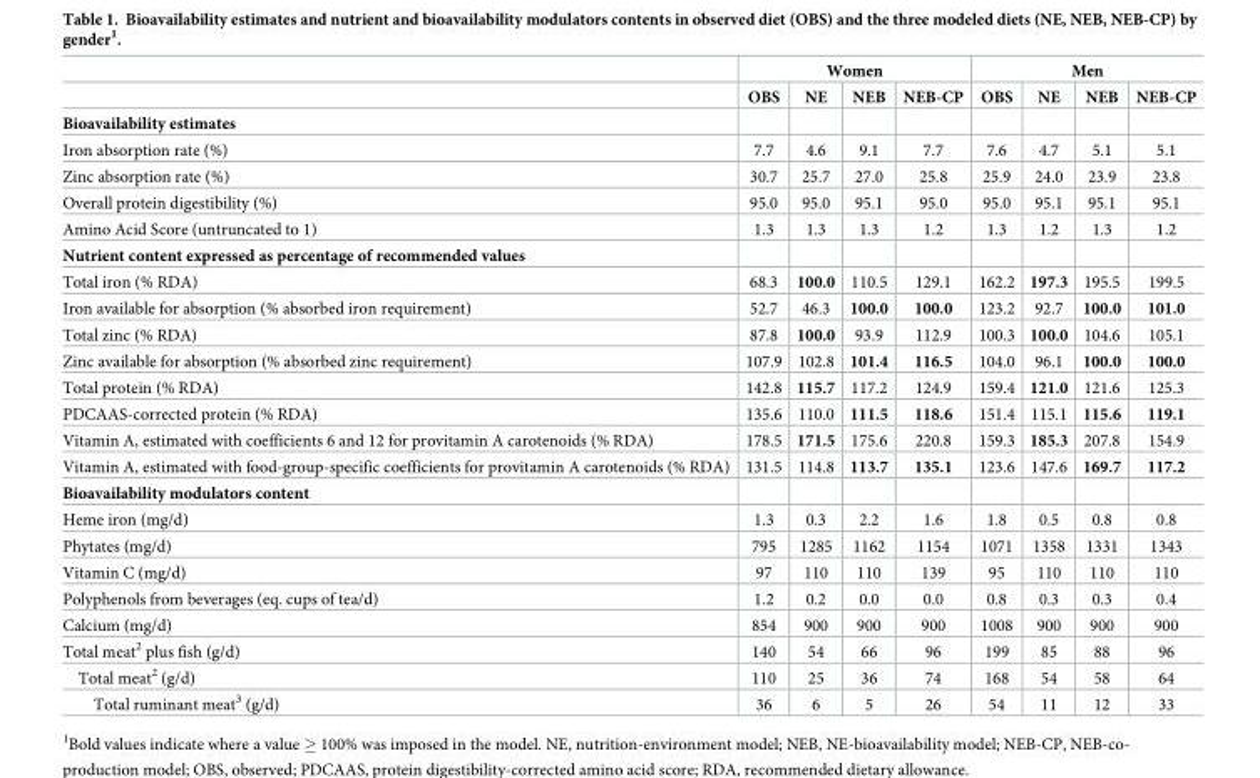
<table><thead><tr><td rowspan="2"></td><td colspan="4">Women</td><td colspan="4">Men</td></tr><tr><td>OBS</td><td>NE</td><td>NEB</td><td>NEB-CP</td><td>OBS</td><td>NE</td><td>NEB</td><td>NEB-CP</td></tr></thead><tbody><tr><td colspan="9">Bioavailability estimates</td></tr><tr><td>Iron absorption rate (%)</td><td>7.7</td><td>4.6</td><td>9.1</td><td>7.7</td><td>7.6</td><td>4.7</td><td>5.1</td><td>5.1</td></tr><tr><td>Zinc absorption rate (%)</td><td>30.7</td><td>25.7</td><td>27.0</td><td>25.8</td><td>25.9</td><td>24.0</td><td>23.9</td><td>23.8</td></tr><tr><td>Overall protein digestibility (%)</td><td>95.0</td><td>95.0</td><td>95.1</td><td>95.0</td><td>95.0</td><td>95.1</td><td>95.1</td><td>95.1</td></tr><tr><td>Amino Acid Score (untruncated to 1)</td><td>1.3</td><td>1.3</td><td>1.3</td><td>1.2</td><td>1.3</td><td>1.2</td><td>1.3</td><td>1.2</td></tr><tr><td colspan="9">Nutrient content expressed as percentage of recommended values</td></tr><tr><td>Total iron (% RDA)</td><td>68.3</td><td>100.0</td><td>110.5</td><td>129.1</td><td>162.2</td><td>197.3</td><td>195.5</td><td>199.5</td></tr><tr><td>Iron available for absorption (% absorbed iron requirement)</td><td>52.7</td><td>46.3</td><td>100.0</td><td>100.0</td><td>123.2</td><td>92.7</td><td>100.0</td><td>101.0</td></tr><tr><td>Total zinc (% RDA)</td><td>87.8</td><td>100.0</td><td>93.9</td><td>112.9</td><td>100.3</td><td>100.0</td><td>104.6</td><td>105.1</td></tr><tr><td>Zinc available for absorption (% absorbed zinc requirement)</td><td>107.9</td><td>102.8</td><td>101.4</td><td>116.5</td><td>104.0</td><td>96.1</td><td>100.0</td><td>100.0</td></tr><tr><td>Total protein (% RDA)</td><td>142.8</td><td>115.7</td><td>117.2</td><td>124.9</td><td>159.4</td><td>121.0</td><td>121.6</td><td>125.3</td></tr><tr><td>PDCAAS-corrected protein (% RDA)</td><td>135.6</td><td>110.0</td><td>111.5</td><td>118.6</td><td>151.4</td><td>115.1</td><td>115.6</td><td>119.1</td></tr><tr><td>Vitamin A, estimated with coefficients 6 and 12 for provitamin A carotenoids (% RDA)</td><td>178.5</td><td>171.5</td><td>175.6</td><td>220.8</td><td>159.3</td><td>185.3</td><td>207.8</td><td>154.9</td></tr><tr><td>Vitamin A, estimated with food-group-specific coefficients for provitamin A carotenoids (% RDA)</td><td>131.5</td><td>114.8</td><td>113.7</td><td>135.1</td><td>123.6</td><td>147.6</td><td>169.7</td><td>117.2</td></tr><tr><td colspan="9">Bioavailability modulators content</td></tr><tr><td>Heme iron (mg/d)</td><td>1.3</td><td>0.3</td><td>2.2</td><td>1.6</td><td>1.8</td><td>0.5</td><td>0.8</td><td>0.8</td></tr><tr><td>Phytates (mg/d)</td><td>795</td><td>1285</td><td>1162</td><td>1154</td><td>1071</td><td>1358</td><td>1331</td><td>1343</td></tr><tr><td>Vitamin C (mg/d)</td><td>97</td><td>110</td><td>110</td><td>139</td><td>95</td><td>110</td><td>110</td><td>110</td></tr><tr><td>Polyphenols from beverages (eq. cups of tea/d)</td><td>1.2</td><td>0.2</td><td>0.0</td><td>0.0</td><td>0.8</td><td>0.3</td><td>0.3</td><td>0.4</td></tr><tr><td>Calcium (mg/d)</td><td>854</td><td>900</td><td>900</td><td>900</td><td>1008</td><td>900</td><td>900</td><td>900</td></tr><tr><td>Total meat<sup>2</sup> plus fish (g/d)</td><td>140</td><td>54</td><td>66</td><td>96</td><td>199</td><td>85</td><td>88</td><td>96</td></tr><tr><td>Total meat<sup>2</sup> (g/d)</td><td>110</td><td>25</td><td>36</td><td>74</td><td>168</td><td>54</td><td>58</td><td>64</td></tr><tr><td>Total ruminant meat<sup>3</sup> (g/d)</td><td>36</td><td>6</td><td>5</td><td>26</td><td>54</td><td>11</td><td>12</td><td>33</td></tr></tbody></table>